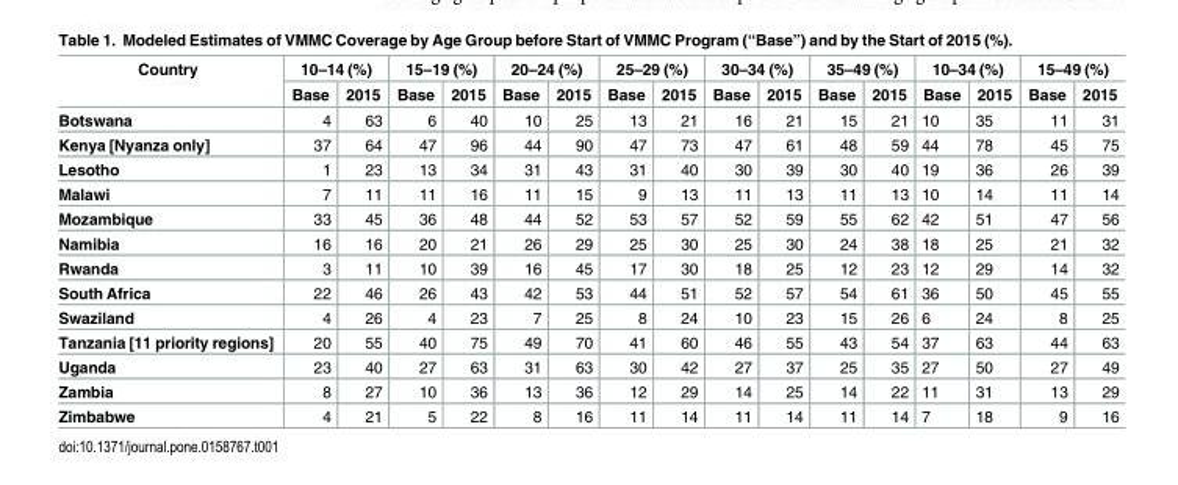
<table><thead><tr><td rowspan="2">Country</td><td colspan="2">10–14 (%)</td><td colspan="2">15–19 (%)</td><td colspan="2">20–24 (%)</td><td colspan="2">25–29 (%)</td><td colspan="2">30–34 (%)</td><td colspan="2">35–49 (%)</td><td colspan="2">10–34 (%)</td><td colspan="2">15–49 (%)</td></tr><tr><td>Base</td><td>2015</td><td>Base</td><td>2015</td><td>Base</td><td>2015</td><td>Base</td><td>2015</td><td>Base</td><td>2015</td><td>Base</td><td>2015</td><td>Base</td><td>2015</td><td>Base</td><td>2015</td></tr></thead><tbody><tr><td>Botswana</td><td>4</td><td>63</td><td>6</td><td>40</td><td>10</td><td>25</td><td>13</td><td>21</td><td>16</td><td>21</td><td>15</td><td>21</td><td>10</td><td>35</td><td>11</td><td>31</td></tr><tr><td>Kenya [Nyanza only]</td><td>37</td><td>64</td><td>47</td><td>96</td><td>44</td><td>90</td><td>47</td><td>73</td><td>47</td><td>61</td><td>48</td><td>59</td><td>44</td><td>78</td><td>45</td><td>75</td></tr><tr><td>Lesotho</td><td>1</td><td>23</td><td>13</td><td>34</td><td>31</td><td>43</td><td>31</td><td>40</td><td>30</td><td>39</td><td>30</td><td>40</td><td>19</td><td>36</td><td>26</td><td>39</td></tr><tr><td>Malawi</td><td>7</td><td>11</td><td>11</td><td>16</td><td>11</td><td>15</td><td>9</td><td>13</td><td>11</td><td>13</td><td>11</td><td>13</td><td>10</td><td>14</td><td>11</td><td>14</td></tr><tr><td>Mozambique</td><td>33</td><td>45</td><td>36</td><td>48</td><td>44</td><td>52</td><td>53</td><td>57</td><td>52</td><td>59</td><td>55</td><td>62</td><td>42</td><td>51</td><td>47</td><td>56</td></tr><tr><td>Namibia</td><td>16</td><td>16</td><td>20</td><td>21</td><td>26</td><td>29</td><td>25</td><td>30</td><td>25</td><td>30</td><td>24</td><td>38</td><td>18</td><td>25</td><td>21</td><td>32</td></tr><tr><td>Rwanda</td><td>3</td><td>11</td><td>10</td><td>39</td><td>16</td><td>45</td><td>17</td><td>30</td><td>18</td><td>25</td><td>12</td><td>23</td><td>12</td><td>29</td><td>14</td><td>32</td></tr><tr><td>South Africa</td><td>22</td><td>46</td><td>26</td><td>43</td><td>42</td><td>53</td><td>44</td><td>51</td><td>52</td><td>57</td><td>54</td><td>61</td><td>36</td><td>50</td><td>45</td><td>55</td></tr><tr><td>Swaziland</td><td>4</td><td>26</td><td>4</td><td>23</td><td>7</td><td>25</td><td>8</td><td>24</td><td>10</td><td>23</td><td>15</td><td>26</td><td>6</td><td>24</td><td>8</td><td>25</td></tr><tr><td>Tanzania [11 priority regions]</td><td>20</td><td>55</td><td>40</td><td>75</td><td>49</td><td>70</td><td>41</td><td>60</td><td>46</td><td>55</td><td>43</td><td>54</td><td>37</td><td>63</td><td>44</td><td>63</td></tr><tr><td>Uganda</td><td>23</td><td>40</td><td>27</td><td>63</td><td>31</td><td>63</td><td>30</td><td>42</td><td>27</td><td>37</td><td>25</td><td>35</td><td>27</td><td>50</td><td>27</td><td>49</td></tr><tr><td>Zambia</td><td>8</td><td>27</td><td>10</td><td>36</td><td>13</td><td>36</td><td>12</td><td>29</td><td>14</td><td>25</td><td>14</td><td>22</td><td>11</td><td>31</td><td>13</td><td>29</td></tr><tr><td>Zimbabwe</td><td>4</td><td>21</td><td>5</td><td>22</td><td>8</td><td>16</td><td>11</td><td>14</td><td>11</td><td>14</td><td>11</td><td>14</td><td>7</td><td>18</td><td>9</td><td>16</td></tr></tbody></table>